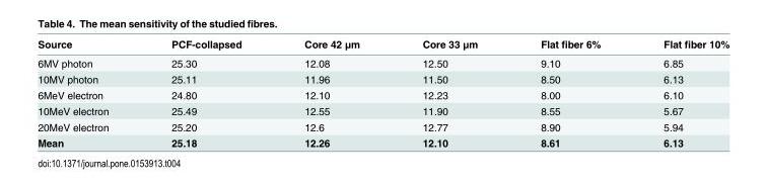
<table><thead><tr><td>Source</td><td>PCF-collapsed</td><td>Core 42 μm</td><td>Core 33 μm</td><td>Flat fiber 6%</td><td>Flat fiber 10%</td></tr></thead><tbody><tr><td>6MV photon</td><td>25.30</td><td>12.08</td><td>12.50</td><td>9.10</td><td>6.85</td></tr><tr><td>10MV photon</td><td>25.11</td><td>11.96</td><td>11.50</td><td>8.50</td><td>6.13</td></tr><tr><td>6MeV electron</td><td>24.80</td><td>12.10</td><td>12.23</td><td>8.00</td><td>6.10</td></tr><tr><td>10MeV electron</td><td>25.49</td><td>12.55</td><td>11.90</td><td>8.55</td><td>5.67</td></tr><tr><td>20MeV electron</td><td>25.20</td><td>12.6</td><td>12.77</td><td>8.90</td><td>5.94</td></tr><tr><td>Mean</td><td>25.18</td><td>12.26</td><td>12.10</td><td>8.61</td><td>6.13</td></tr></tbody></table>